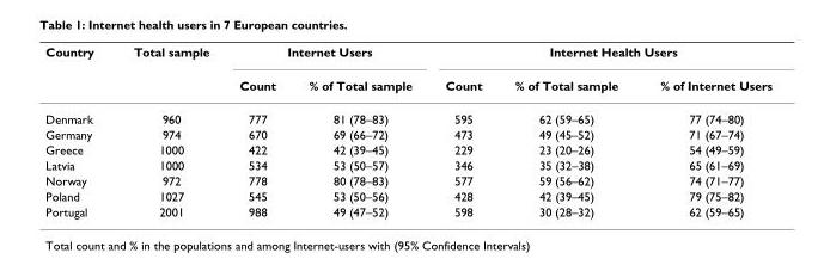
<table><thead><tr><td rowspan="2">Country</td><td rowspan="2">Total sample</td><td colspan="2">Internet Users</td><td colspan="3">Internet Health Users</td></tr><tr><td>Count</td><td>% of Total sample</td><td>Count</td><td>% of Total sample</td><td>% of Internet Users</td></tr></thead><tbody><tr><td>Denmark</td><td>960</td><td>777</td><td>81 (78–83)</td><td>595</td><td>62 (59–65)</td><td>77 (74–80)</td></tr><tr><td>Germany</td><td>974</td><td>670</td><td>69 (66–72)</td><td>473</td><td>49 (45–52)</td><td>71 (67–74)</td></tr><tr><td>Greece</td><td>1000</td><td>422</td><td>42 (39–45)</td><td>229</td><td>23 (20–26)</td><td>54 (49–59)</td></tr><tr><td>Latvia</td><td>1000</td><td>534</td><td>53 (50–57)</td><td>346</td><td>35 (32–38)</td><td>65 (61–69)</td></tr><tr><td>Norway</td><td>972</td><td>778</td><td>80 (78–83)</td><td>577</td><td>59 (56–62)</td><td>74 (71–77)</td></tr><tr><td>Poland</td><td>1027</td><td>545</td><td>53 (50–56)</td><td>428</td><td>42 (39–45)</td><td>79 (75–82)</td></tr><tr><td>Portugal</td><td>2001</td><td>988</td><td>49 (47–52)</td><td>598</td><td>30 (28–32)</td><td>62 (59–65)</td></tr></tbody></table>